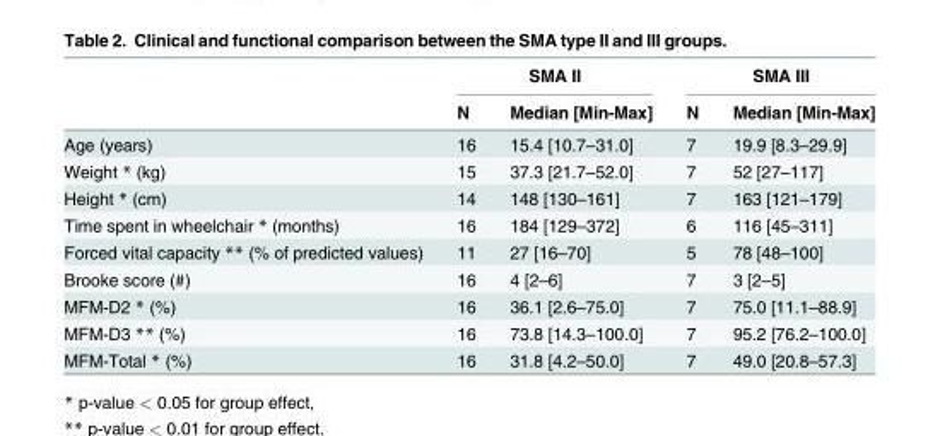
<table><thead><tr><td rowspan="2"></td><td colspan="2">SMA II</td><td colspan="2">SMA III</td></tr><tr><td>N</td><td>Median [Min-Max]</td><td>N</td><td>Median [Min-Max]</td></tr></thead><tbody><tr><td>Age (years)</td><td>16</td><td>15.4 [10.7–31.0]</td><td>7</td><td>19.9 [8.3–29.9]</td></tr><tr><td>Weight * (kg)</td><td>15</td><td>37.3 [21.7–52.0]</td><td>7</td><td>52 [27–117]</td></tr><tr><td>Height * (cm)</td><td>14</td><td>148 [130–161]</td><td>7</td><td>163 [121–179]</td></tr><tr><td>Time spent in wheelchair * (months)</td><td>16</td><td>184 [129–372]</td><td>6</td><td>116 [45–311]</td></tr><tr><td>Forced vital capacity ** (% of predicted values)</td><td>11</td><td>27 [16–70]</td><td>5</td><td>78 [48–100]</td></tr><tr><td>Brooke score (#)</td><td>16</td><td>4 [2–6]</td><td>7</td><td>3 [2–5]</td></tr><tr><td>MFM-D2 * (%)</td><td>16</td><td>36.1 [2.6–75.0]</td><td>7</td><td>75.0 [11.1–88.9]</td></tr><tr><td>MFM-D3 ** (%)</td><td>16</td><td>73.8 [14.3–100.0]</td><td>7</td><td>95.2 [76.2–100.0]</td></tr><tr><td>MFM-Total * (%)</td><td>16</td><td>31.8 [4.2–50.0]</td><td>7</td><td>49.0 [20.8–57.3]</td></tr></tbody></table>